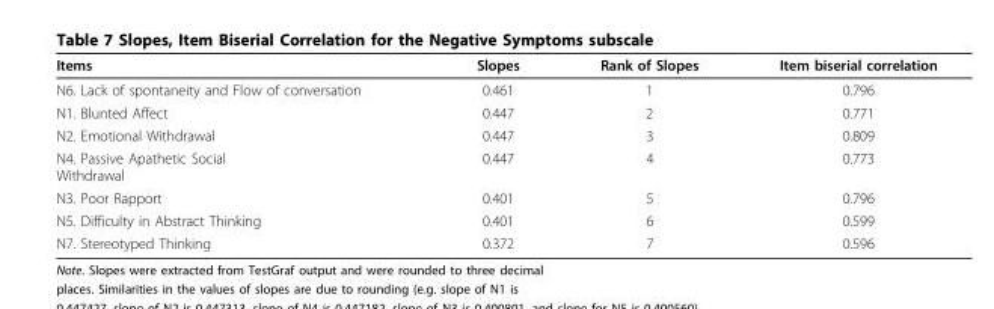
<table><thead><tr><td>Items</td><td>Slopes</td><td>Rank of Slopes</td><td>Item biserial correlation</td></tr></thead><tbody><tr><td>N6. Lack of spontaneity and Flow of conversation</td><td>0.461</td><td>1</td><td>0.796</td></tr><tr><td>N1. Blunted Affect</td><td>0.447</td><td>2</td><td>0.771</td></tr><tr><td>N2. Emotional Withdrawal</td><td>0.447</td><td>3</td><td>0.809</td></tr><tr><td>N4. Passive Apathetic Social Withdrawal</td><td>0.447</td><td>4</td><td>0.773</td></tr><tr><td>N3. Poor Rapport</td><td>0.401</td><td>5</td><td>0.796</td></tr><tr><td>N5. Difficulty in Abstract Thinking</td><td>0.401</td><td>6</td><td>0.599</td></tr><tr><td>N7. Stereotyped Thinking</td><td>0.372</td><td>7</td><td>0.596</td></tr></tbody></table>